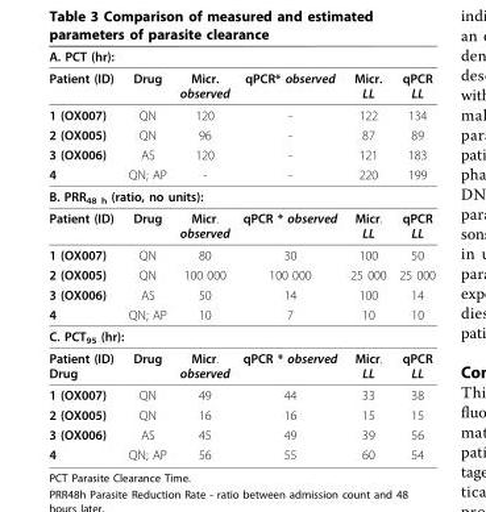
<table><thead><tr><td colspan="6">A. PCT (hr):</td></tr><tr><td>Patient (ID)</td><td>Drug</td><td>Micr. observed</td><td>qPCR* observed</td><td>Micr. LL</td><td>qPCR LL</td></tr></thead><tbody><tr><td>1 (OX007)</td><td>QN</td><td>120</td><td>-</td><td>122</td><td>134</td></tr><tr><td>2 (OX005)</td><td>QN</td><td>96</td><td>-</td><td>87</td><td>89</td></tr><tr><td>3 (OX006)</td><td>AS</td><td>120</td><td>-</td><td>121</td><td>183</td></tr><tr><td>4</td><td>QN; AP</td><td>-</td><td>-</td><td>220</td><td>199</td></tr><tr><td colspan="6">B. PRR<sub>48 h</sub> (ratio, no units):</td></tr><tr><td>Patient (ID)</td><td>Drug</td><td>Micr. observed</td><td>qPCR * observed</td><td>Micr. LL</td><td>qPCR LL</td></tr><tr><td>1 (OX007)</td><td>QN</td><td>80</td><td>30</td><td>100</td><td>50</td></tr><tr><td>2 (OX005)</td><td>QN</td><td>100 000</td><td>100 000</td><td>25 000</td><td>25 000</td></tr><tr><td>3 (OX006)</td><td>AS</td><td>50</td><td>14</td><td>100</td><td>14</td></tr><tr><td>4</td><td>QN; AP</td><td>10</td><td>7</td><td>10</td><td>10</td></tr><tr><td colspan="6">C. PCT<sub>95</sub> (hr):</td></tr><tr><td>Patient (ID) Drug</td><td>Drug</td><td>Micr. observed</td><td>qPCR * observed</td><td>Micr. LL</td><td>qPCR LL</td></tr><tr><td>1 (OX007)</td><td>QN</td><td>49</td><td>44</td><td>33</td><td>38</td></tr><tr><td>2 (OX005)</td><td>QN</td><td>16</td><td>16</td><td>15</td><td>15</td></tr><tr><td>3 (OX006)</td><td>AS</td><td>45</td><td>49</td><td>39</td><td>56</td></tr><tr><td>4</td><td>QN; AP</td><td>56</td><td>55</td><td>60</td><td>54</td></tr></tbody></table>